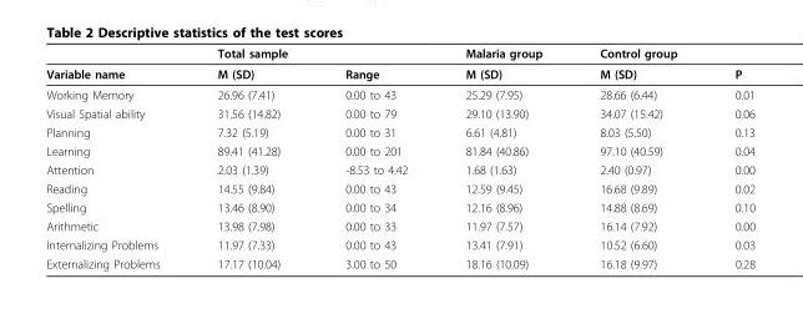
<table><thead><tr><td></td><td>Total sample</td><td></td><td>Malaria group</td><td>Control group</td><td></td></tr></thead><tbody><tr><td>Variable name</td><td>M (SD)</td><td>Range</td><td>M (SD)</td><td>M (SD)</td><td>P</td></tr><tr><td>Working Memory</td><td>26.96 (7.41)</td><td>0.00 to 43</td><td>25.29 (7.95)</td><td>28.66 (6.44)</td><td>0.01</td></tr><tr><td>Visual Spatial ability</td><td>31.56 (14.82)</td><td>0.00 to 79</td><td>29.10 (13.90)</td><td>34.07 (15.42)</td><td>0.06</td></tr><tr><td>Planning</td><td>7.32 (5.19)</td><td>0.00 to 31</td><td>6.61 (4.81)</td><td>8.03 (5.50)</td><td>0.13</td></tr><tr><td>Learning</td><td>89.41 (41.28)</td><td>0.00 to 201</td><td>81.84 (40.86)</td><td>97.10 (40.59)</td><td>0.04</td></tr><tr><td>Attention</td><td>2.03 (1.39)</td><td>-8.53 to 4.42</td><td>1.68 (1.63)</td><td>2.40 (0.97)</td><td>0.00</td></tr><tr><td>Reading</td><td>14.55 (9.84)</td><td>0.00 to 43</td><td>12.59 (9.45)</td><td>16.68 (9.89)</td><td>0.02</td></tr><tr><td>Spelling</td><td>13.46 (8.90)</td><td>0.00 to 34</td><td>12.16 (8.96)</td><td>14.88 (8.69)</td><td>0.10</td></tr><tr><td>Arithmetic</td><td>13.98 (7.98)</td><td>0.00 to 33</td><td>11.97 (7.57)</td><td>16.14 (7.92)</td><td>0.00</td></tr><tr><td>Internalizing Problems</td><td>11.97 (7.33)</td><td>0.00 to 43</td><td>13.41 (7.91)</td><td>10.52 (6.60)</td><td>0.03</td></tr><tr><td>Externalizing Problems</td><td>17.17 (10.04)</td><td>3.00 to 50</td><td>18.16 (10.09)</td><td>16.18 (9.97)</td><td>0.28</td></tr></tbody></table>